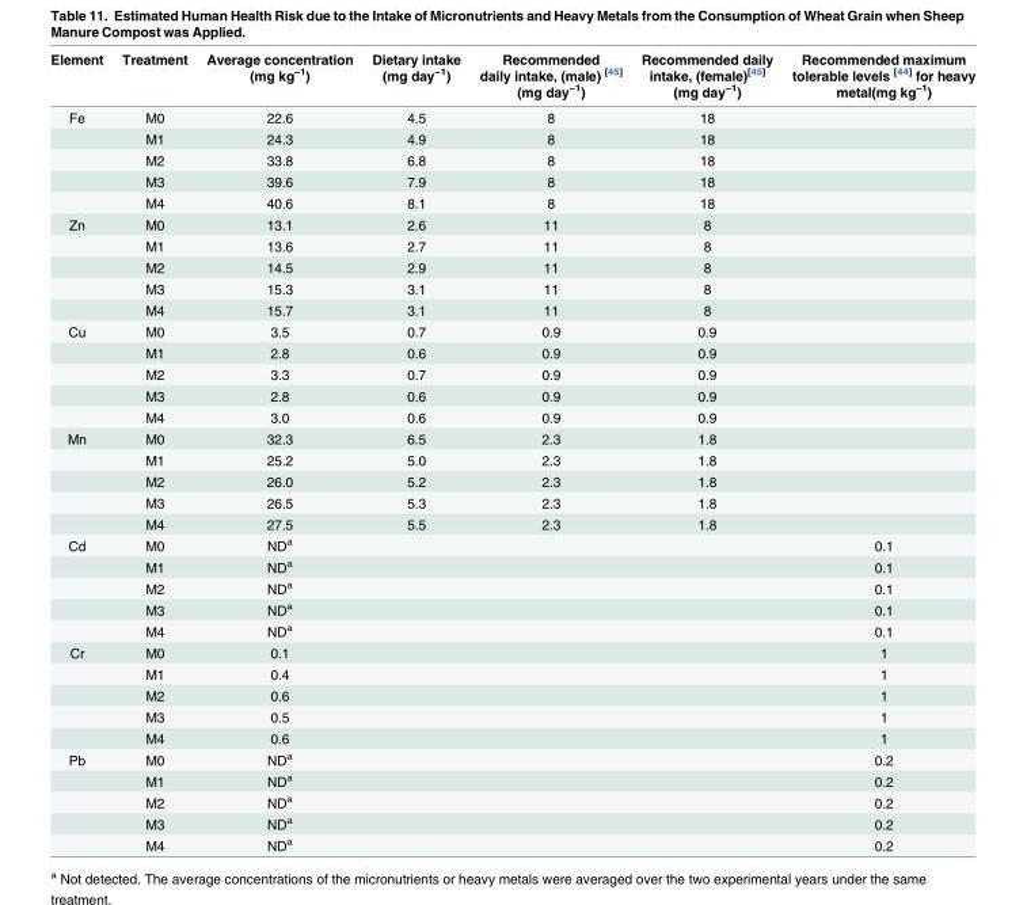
<table><thead><tr><td>Element</td><td>Treatment</td><td>Average concentration (mg kg<sup>–1</sup>)</td><td>Dietary intake (mg day<sup>−1</sup>)</td><td>Recommended daily intake, (male) <sup>[45]</sup> (mg day<sup>−1</sup>)</td><td>Recommended daily intake, (female)<sup>[45]</sup> (mg day<sup>−1</sup>)</td><td>Recommended maximum tolerable levels <sup>[44]</sup> for heavy metal(mg kg<sup>–1</sup>)</td></tr></thead><tbody><tr><td rowspan="5">Fe</td><td>M0</td><td>22.6</td><td>4.5</td><td>8</td><td>18</td><td></td></tr><tr><td>M1</td><td>24.3</td><td>4.9</td><td>8</td><td>18</td><td></td></tr><tr><td>M2</td><td>33.8</td><td>6.8</td><td>8</td><td>18</td><td></td></tr><tr><td>M3</td><td>39.6</td><td>7.9</td><td>8</td><td>18</td><td></td></tr><tr><td>M4</td><td>40.6</td><td>8.1</td><td>8</td><td>18</td><td></td></tr><tr><td rowspan="5">Zn</td><td>M0</td><td>13.1</td><td>2.6</td><td>11</td><td>8</td><td></td></tr><tr><td>M1</td><td>13.6</td><td>2.7</td><td>11</td><td>8</td><td></td></tr><tr><td>M2</td><td>14.5</td><td>2.9</td><td>11</td><td>8</td><td></td></tr><tr><td>M3</td><td>15.3</td><td>3.1</td><td>11</td><td>8</td><td></td></tr><tr><td>M4</td><td>15.7</td><td>3.1</td><td>11</td><td>8</td><td></td></tr><tr><td rowspan="5">Cu</td><td>M0</td><td>3.5</td><td>0.7</td><td>0.9</td><td>0.9</td><td></td></tr><tr><td>M1</td><td>2.8</td><td>0.6</td><td>0.9</td><td>0.9</td><td></td></tr><tr><td>M2</td><td>3.3</td><td>0.7</td><td>0.9</td><td>0.9</td><td></td></tr><tr><td>M3</td><td>2.8</td><td>0.6</td><td>0.9</td><td>0.9</td><td></td></tr><tr><td>M4</td><td>3.0</td><td>0.6</td><td>0.9</td><td>0.9</td><td></td></tr><tr><td rowspan="5">Mn</td><td>M0</td><td>32.3</td><td>6.5</td><td>2.3</td><td>1.8</td><td></td></tr><tr><td>M1</td><td>25.2</td><td>5.0</td><td>2.3</td><td>1.8</td><td></td></tr><tr><td>M2</td><td>26.0</td><td>5.2</td><td>2.3</td><td>1.8</td><td></td></tr><tr><td>M3</td><td>26.5</td><td>5.3</td><td>2.3</td><td>1.8</td><td></td></tr><tr><td>M4</td><td>27.5</td><td>5.5</td><td>2.3</td><td>1.8</td><td></td></tr><tr><td rowspan="5">Cd</td><td>M0</td><td>ND<sup>a</sup></td><td></td><td></td><td></td><td>0.1</td></tr><tr><td>M1</td><td>ND<sup>a</sup></td><td></td><td></td><td></td><td>0.1</td></tr><tr><td>M2</td><td>ND<sup>a</sup></td><td></td><td></td><td></td><td>0.1</td></tr><tr><td>M3</td><td>ND<sup>a</sup></td><td></td><td></td><td></td><td>0.1</td></tr><tr><td>M4</td><td>ND<sup>a</sup></td><td></td><td></td><td></td><td>0.1</td></tr><tr><td rowspan="5">Cr</td><td>M0</td><td>0.1</td><td></td><td></td><td></td><td>1</td></tr><tr><td>M1</td><td>0.4</td><td></td><td></td><td></td><td>1</td></tr><tr><td>M2</td><td>0.6</td><td></td><td></td><td></td><td>1</td></tr><tr><td>M3</td><td>0.5</td><td></td><td></td><td></td><td>1</td></tr><tr><td>M4</td><td>0.6</td><td></td><td></td><td></td><td>1</td></tr><tr><td rowspan="5">Pb</td><td>M0</td><td>ND<sup>a</sup></td><td></td><td></td><td></td><td>0.2</td></tr><tr><td>M1</td><td>ND<sup>a</sup></td><td></td><td></td><td></td><td>0.2</td></tr><tr><td>M2</td><td>ND<sup>a</sup></td><td></td><td></td><td></td><td>0.2</td></tr><tr><td>M3</td><td>ND<sup>a</sup></td><td></td><td></td><td></td><td>0.2</td></tr><tr><td>M4</td><td>ND<sup>a</sup></td><td></td><td></td><td></td><td>0.2</td></tr></tbody></table>